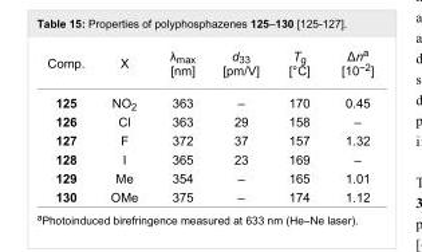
<table><tbody><tr><td>Comp.</td><td>X</td><td>λ<sub>max</sub> [nm]</td><td>d<sub>33</sub> [pm/V]</td><td>T<sub>g</sub> [°C]</td><td>Δn<sup>a</sup> [10<sup>−2</sup>]</td></tr><tr><td>125</td><td>NO<sub>2</sub></td><td>363</td><td>–</td><td>170</td><td>0.45</td></tr><tr><td>126</td><td>Cl</td><td>363</td><td>29</td><td>158</td><td>–</td></tr><tr><td>127</td><td>F</td><td>372</td><td>37</td><td>157</td><td>1.32</td></tr><tr><td>128</td><td>I</td><td>365</td><td>23</td><td>169</td><td>–</td></tr><tr><td>129</td><td>Me</td><td>354</td><td>–</td><td>165</td><td>1.01</td></tr><tr><td>130</td><td>OMe</td><td>375</td><td>–</td><td>174</td><td>1.12</td></tr></tbody></table>